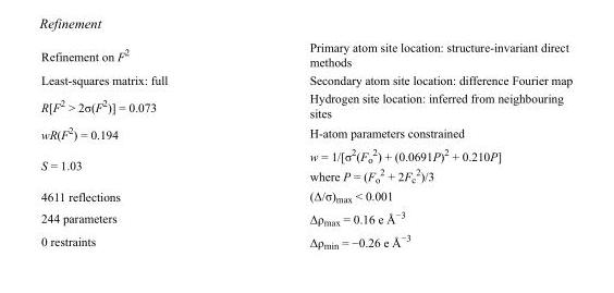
<table><tbody><tr><td>Refinement on F<sup>2</sup></td><td>Primary atom site location: structure-invariant direct methods</td></tr><tr><td>Least-squares matrix: full</td><td>Secondary atom site location: difference Fourier map</td></tr><tr><td>R[F<sup>2</sup> &gt; 2σ(F<sup>2</sup>)] = 0.073</td><td>Hydrogen site location: inferred from neighbouring sites</td></tr><tr><td>wR(F<sup>2</sup>) = 0.194</td><td>H-atom parameters constrained</td></tr><tr><td>S = 1.03</td><td>w = 1/[σ<sup>2</sup>(F<sub>o</sub> <sup>2</sup>) + (0.0691P)<sup>2</sup> + 0.210P] where P = (F<sub>o</sub> <sup>2</sup> + 2F<sub>c</sub> <sup>2</sup>)/3</td></tr><tr><td>4611 reflections</td><td>(Δ/σ)<sub>max</sub> &lt; 0.001</td></tr><tr><td>244 parameters</td><td>Δρ<sub>max</sub> = 0.16 e Å<sup>−3</sup></td></tr><tr><td>0 restraints</td><td>Δρ<sub>min</sub> = −0.26 e Å<sup>−3</sup></td></tr></tbody></table>